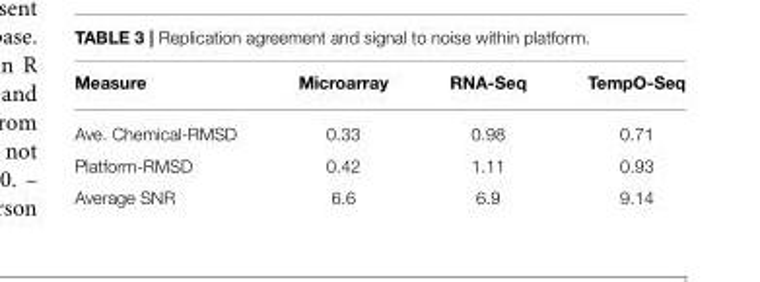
<table><thead><tr><td>Measure</td><td>Microarray</td><td>RNA-Seq</td><td>TempO-Seq</td></tr></thead><tbody><tr><td>Ave. Chemical-RMSD</td><td>0.33</td><td>0.98</td><td>0.71</td></tr><tr><td>Platform-RMSD</td><td>0.42</td><td>1.11</td><td>0.93</td></tr><tr><td>Average SNR</td><td>6.6</td><td>6.9</td><td>9.14</td></tr></tbody></table>